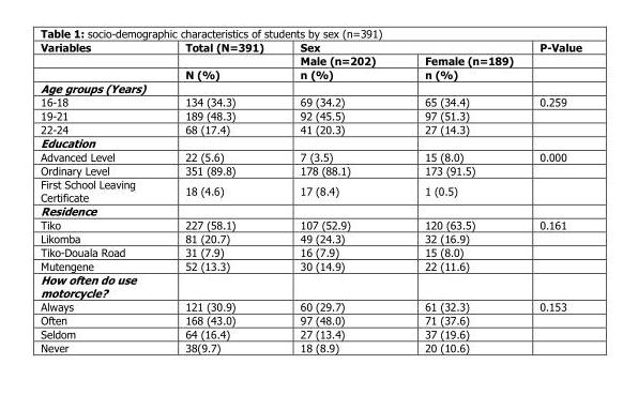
<table><thead><tr><td rowspan="3">Variables</td><td rowspan="3">Total (N=391) N (%)</td><td colspan="2">Sex</td><td rowspan="3">P-Value</td></tr><tr><td rowspan="2">Male (n=202) n (%)</td><td rowspan="2">Female (n=189) n (%)</td></tr><tr></tr></thead><tbody><tr><td colspan="5">Age groups (Years)</td></tr><tr><td>16-18</td><td>134 (34.3)</td><td>69 (34.2)</td><td>65 (34.4)</td><td>0.259</td></tr><tr><td>19-21</td><td>189 (48.3)</td><td>92 (45.5)</td><td>97 (51.3)</td><td></td></tr><tr><td>22-24</td><td>68 (17.4)</td><td>41 (20.3)</td><td>27 (14.3)</td><td></td></tr><tr><td colspan="5">Education</td></tr><tr><td>Advanced Level</td><td>22 (5.6)</td><td>7 (3.5)</td><td>15 (8.0)</td><td>0.000</td></tr><tr><td>Ordinary Level</td><td>351 (89.8)</td><td>178 (88.1)</td><td>173 (91.5)</td><td></td></tr><tr><td>First School Leaving Certificate</td><td>18 (4.6)</td><td>17 (8.4)</td><td>1 (0.5)</td><td></td></tr><tr><td colspan="5">Residence</td></tr><tr><td>Tiko</td><td>227 (58.1)</td><td>107 (52.9)</td><td>120 (63.5)</td><td>0.161</td></tr><tr><td>Likomba</td><td>81 (20.7)</td><td>49 (24.3)</td><td>32 (16.9)</td><td></td></tr><tr><td>Tiko-Douala Road</td><td>31 (7.9)</td><td>16 (7.9)</td><td>15 (8.0)</td><td></td></tr><tr><td>Mutengene</td><td>52 (13.3)</td><td>30 (14.9)</td><td>22 (11.6)</td><td></td></tr><tr><td colspan="5">How often do use motorcycle?</td></tr><tr><td>Always</td><td>121 (30.9)</td><td>60 (29.7)</td><td>61 (32.3)</td><td>0.153</td></tr><tr><td>Often</td><td>168 (43.0)</td><td>97 (48.0)</td><td>71 (37.6)</td><td></td></tr><tr><td>Seldom</td><td>64 (16.4)</td><td>27 (13.4)</td><td>37 (19.6)</td><td></td></tr><tr><td>Never</td><td>38(9.7)</td><td>18 (8.9)</td><td>20 (10.6)</td><td></td></tr></tbody></table>